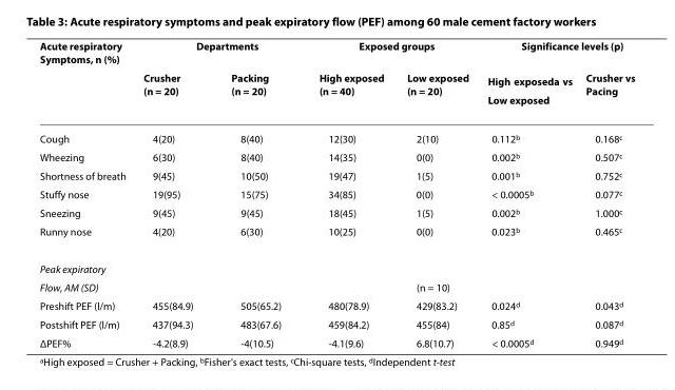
<table><thead><tr><td rowspan="2">Acute respiratory Symptoms, n (%)</td><td colspan="2">Departments</td><td colspan="2">Exposed groups</td><td colspan="2">Significance levels (p)</td></tr><tr><td>Crusher (n = 20)</td><td>Packing (n = 20)</td><td>High exposed (n = 40)</td><td>Low exposed (n = 20)</td><td>High exposed<sup>a</sup> vs Low exposed</td><td>Crusher vs Pacing</td></tr></thead><tbody><tr><td>Cough</td><td>4(20)</td><td>8(40)</td><td>12(30)</td><td>2(10)</td><td>0.112<sup>b</sup></td><td>0.168<sup>c</sup></td></tr><tr><td>Wheezing</td><td>6(30)</td><td>8(40)</td><td>14(35)</td><td>0(0)</td><td>0.002<sup>b</sup></td><td>0.507<sup>c</sup></td></tr><tr><td>Shortness of breath</td><td>9(45)</td><td>10(50)</td><td>19(47)</td><td>1(5)</td><td>0.001<sup>b</sup></td><td>0.752<sup>c</sup></td></tr><tr><td>Stuffy nose</td><td>19(95)</td><td>15(75)</td><td>34(85)</td><td>0(0)</td><td>&lt; 0.0005<sup>b</sup></td><td>0.077<sup>c</sup></td></tr><tr><td>Sneezing</td><td>9(45)</td><td>9(45)</td><td>18(45)</td><td>1(5)</td><td>0.002<sup>b</sup></td><td>1.000<sup>c</sup></td></tr><tr><td>Runny nose</td><td>4(20)</td><td>6(30)</td><td>10(25)</td><td>0(0)</td><td>0.023<sup>b</sup></td><td>0.465<sup>c</sup></td></tr><tr><td colspan="7">Peak expiratory</td></tr><tr><td>Flow, AM (SD)</td><td></td><td></td><td></td><td>(n = 10)</td><td></td><td></td></tr><tr><td>Preshift PEF (l/m)</td><td>455(84.9)</td><td>505(65.2)</td><td>480(78.9)</td><td>429(83.2)</td><td>0.024<sup>d</sup></td><td>0.043<sup>d</sup></td></tr><tr><td>Postshift PEF (l/m)</td><td>437(94.3)</td><td>483(67.6)</td><td>459(84.2)</td><td>455(84)</td><td>0.85<sup>d</sup></td><td>0.087<sup>d</sup></td></tr><tr><td>ΔPEF%</td><td>-4.2(8.9)</td><td>-4(10.5)</td><td>-4.1(9.6)</td><td>6.8(10.7)</td><td>&lt; 0.0005<sup>d</sup></td><td>0.949<sup>d</sup></td></tr></tbody></table>